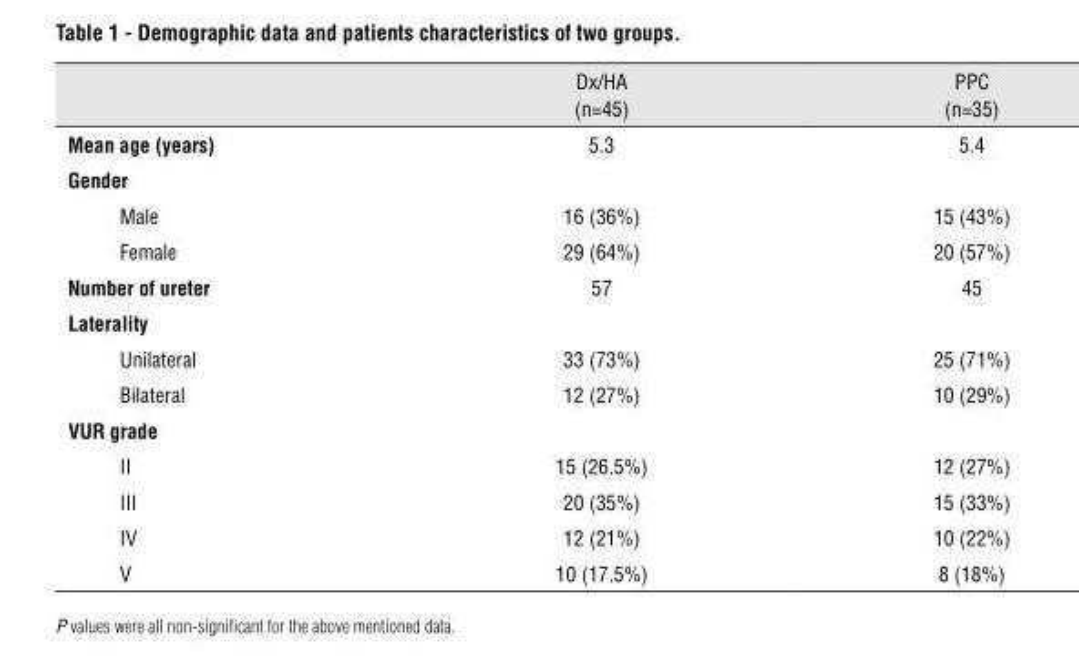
<table><thead><tr><td></td><td>Dx/HA (n=45)</td><td>PPC (n=35)</td></tr></thead><tbody><tr><td>Mean age (years)</td><td>5.3</td><td>5.4</td></tr><tr><td colspan="3">gender</td></tr><tr><td>Male</td><td>16 (36%)</td><td>15 (43%)</td></tr><tr><td>Female</td><td>29 (64%)</td><td>20 (57%)</td></tr><tr><td>number of ureter</td><td>57</td><td>45</td></tr><tr><td colspan="3">Laterality</td></tr><tr><td>Unilateral</td><td>33 (73%)</td><td>25 (71%)</td></tr><tr><td>Bilateral</td><td>12 (27%)</td><td>10 (29%)</td></tr><tr><td colspan="3">vuR grade</td></tr><tr><td>II</td><td>15 (26.5%)</td><td>12 (27%)</td></tr><tr><td>III</td><td>20 (35%)</td><td>15 (33%)</td></tr><tr><td>IV</td><td>12 (21%)</td><td>10 (22%)</td></tr><tr><td>V</td><td>10 (17.5%)</td><td>8 (18%)</td></tr></tbody></table>